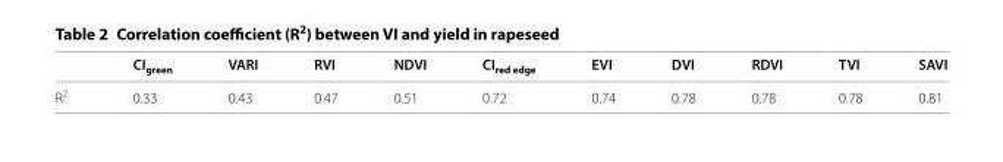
<table><thead><tr><td></td><td>CI<sub>green</sub></td><td>VARI</td><td>RVI</td><td>NDVI</td><td>CI<sub>red edge</sub></td><td>EVI</td><td>DVI</td><td>RDVI</td><td>TVI</td><td>SAVI</td></tr></thead><tbody><tr><td>R<sup>2</sup></td><td>0.33</td><td>0.43</td><td>0.47</td><td>0.51</td><td>0.72</td><td>0.74</td><td>0.78</td><td>0.78</td><td>0.78</td><td>0.81</td></tr></tbody></table>